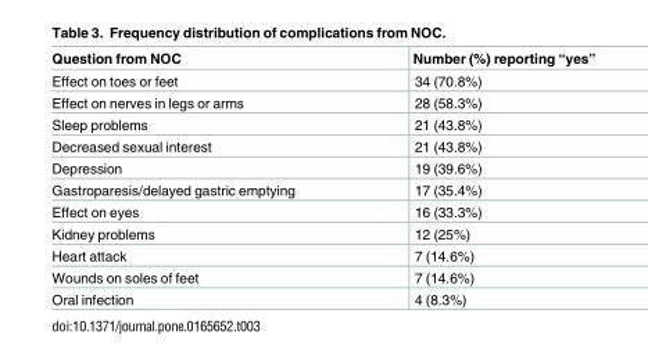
<table><thead><tr><td>Question from NOC</td><td>Number (%) reporting “yes”</td></tr></thead><tbody><tr><td>Effect on toes or feet</td><td>34 (70.8%)</td></tr><tr><td>Effect on nerves in legs or arms</td><td>28 (58.3%)</td></tr><tr><td>Sleep problems</td><td>21 (43.8%)</td></tr><tr><td>Decreased sexual interest</td><td>21 (43.8%)</td></tr><tr><td>Depression</td><td>19 (39.6%)</td></tr><tr><td>Gastroparesis/delayed gastric emptying</td><td>17 (35.4%)</td></tr><tr><td>Effect on eyes</td><td>16 (33.3%)</td></tr><tr><td>Kidney problems</td><td>12 (25%)</td></tr><tr><td>Heart attack</td><td>7 (14.6%)</td></tr><tr><td>Wounds on soles of feet</td><td>7 (14.6%)</td></tr><tr><td>Oral infection</td><td>4 (8.3%)</td></tr></tbody></table>